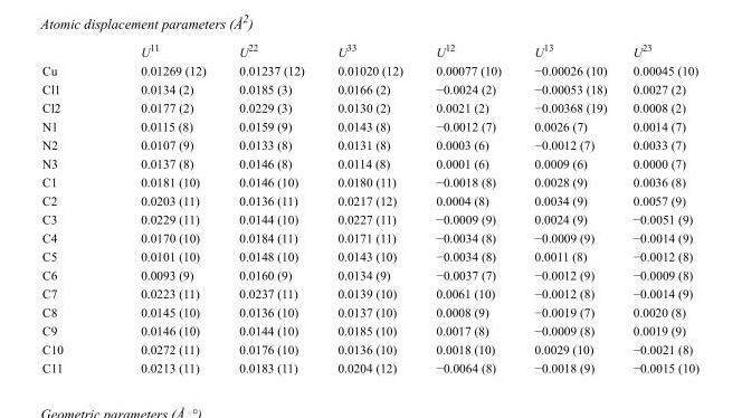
<table><thead><tr><td></td><td>U<sup>11</sup></td><td>U<sup>22</sup></td><td>U<sup>33</sup></td><td>U<sup>12</sup></td><td>U<sup>13</sup></td><td>U<sup>23</sup></td></tr></thead><tbody><tr><td>Cu</td><td>0.01269 (12)</td><td>0.01237 (12)</td><td>0.01020 (12)</td><td>0.00077 (10)</td><td>−0.00026 (10)</td><td>0.00045 (10)</td></tr><tr><td>Cl1</td><td>0.0134 (2)</td><td>0.0185 (3)</td><td>0.0166 (2)</td><td>−0.0024 (2)</td><td>−0.00053 (18)</td><td>0.0027 (2)</td></tr><tr><td>Cl2</td><td>0.0177 (2)</td><td>0.0229 (3)</td><td>0.0130 (2)</td><td>0.0021 (2)</td><td>−0.00368 (19)</td><td>0.0008 (2)</td></tr><tr><td>N1</td><td>0.0115 (8)</td><td>0.0159 (9)</td><td>0.0143 (8)</td><td>−0.0012 (7)</td><td>0.0026 (7)</td><td>0.0014 (7)</td></tr><tr><td>N2</td><td>0.0107 (9)</td><td>0.0133 (8)</td><td>0.0131 (8)</td><td>0.0003 (6)</td><td>−0.0012 (7)</td><td>0.0033 (7)</td></tr><tr><td>N3</td><td>0.0137 (8)</td><td>0.0146 (8)</td><td>0.0114 (8)</td><td>0.0001 (6)</td><td>0.0009 (6)</td><td>0.0000 (7)</td></tr><tr><td>C1</td><td>0.0181 (10)</td><td>0.0146 (10)</td><td>0.0180 (11)</td><td>−0.0018 (8)</td><td>0.0028 (9)</td><td>0.0036 (8)</td></tr><tr><td>C2</td><td>0.0203 (11)</td><td>0.0136 (11)</td><td>0.0217 (12)</td><td>0.0004 (8)</td><td>0.0034 (9)</td><td>0.0057 (9)</td></tr><tr><td>C3</td><td>0.0229 (11)</td><td>0.0144 (10)</td><td>0.0227 (11)</td><td>−0.0009 (9)</td><td>0.0024 (9)</td><td>−0.0051 (9)</td></tr><tr><td>C4</td><td>0.0170 (10)</td><td>0.0184 (11)</td><td>0.0171 (11)</td><td>−0.0034 (8)</td><td>−0.0009 (9)</td><td>−0.0014 (9)</td></tr><tr><td>C5</td><td>0.0101 (10)</td><td>0.0148 (10)</td><td>0.0143 (10)</td><td>−0.0034 (8)</td><td>0.0011 (8)</td><td>−0.0012 (8)</td></tr><tr><td>C6</td><td>0.0093 (9)</td><td>0.0160 (9)</td><td>0.0134 (9)</td><td>−0.0037 (7)</td><td>−0.0012 (9)</td><td>−0.0009 (8)</td></tr><tr><td>C7</td><td>0.0223 (11)</td><td>0.0237 (11)</td><td>0.0139 (10)</td><td>0.0061 (10)</td><td>−0.0012 (8)</td><td>−0.0014 (9)</td></tr><tr><td>C8</td><td>0.0145 (10)</td><td>0.0136 (10)</td><td>0.0137 (10)</td><td>0.0008 (9)</td><td>−0.0019 (7)</td><td>0.0020 (8)</td></tr><tr><td>C9</td><td>0.0146 (10)</td><td>0.0144 (10)</td><td>0.0185 (10)</td><td>0.0017 (8)</td><td>−0.0009 (8)</td><td>0.0019 (9)</td></tr><tr><td>C10</td><td>0.0272 (11)</td><td>0.0176 (10)</td><td>0.0136 (10)</td><td>0.0018 (10)</td><td>0.0029 (10)</td><td>−0.0021 (8)</td></tr><tr><td>C11</td><td>0.0213 (11)</td><td>0.0183 (11)</td><td>0.0204 (12)</td><td>−0.0064 (8)</td><td>−0.0018 (9)</td><td>−0.0015 (10)</td></tr></tbody></table>